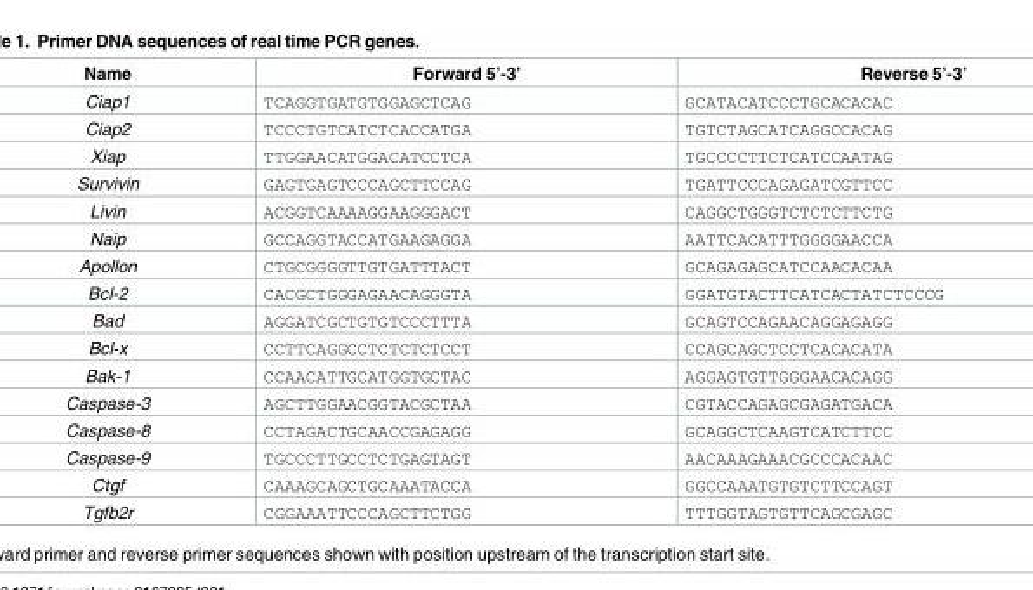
<table><thead><tr><td>Name</td><td>Forward 5’-3’</td><td>Reverse 5’-3’</td></tr></thead><tbody><tr><td>Ciap1</td><td>TCAGGTGATGTGGAGCTCAG</td><td>GCATACATCCCTGCACACAC</td></tr><tr><td>Ciap2</td><td>TCCCTGTCATCTCACCATGA</td><td>TGTCTAGCATCAGGCCACAG</td></tr><tr><td>Xiap</td><td>TTGGAACATGGACATCCTCA</td><td>TGCCCCTTCTCATCCAATAG</td></tr><tr><td>Survivin</td><td>GAGTGAGTCCCAGCTTCCAG</td><td>TGATTCCCAGAGATCGTTCC</td></tr><tr><td>Livin</td><td>ACGGTCAAAAGGAAGGGACT</td><td>CAGGCTGGGTCTCTCTTCTG</td></tr><tr><td>Naip</td><td>GCCAGGTACCATGAAGAGGA</td><td>AATTCACATTTGGGGAACCA</td></tr><tr><td>Apollon</td><td>CTGCGGGGTTGTGATTTACT</td><td>GCAGAGAGCATCCAACACAA</td></tr><tr><td>Bcl-2</td><td>CACGCTGGGAGAACAGGGTA</td><td>GGATGTACTTCATCACTATCTCCCG</td></tr><tr><td>Bad</td><td>AGGATCGCTGTGTCCCTTTA</td><td>GCAGTCCAGAACAGGAGAGG</td></tr><tr><td>Bcl-x</td><td>CCTTCAGGCCTCTCTCTCCT</td><td>CCAGCAGCTCCTCACACATA</td></tr><tr><td>Bak-1</td><td>CCAACATTGCATGGTGCTAC</td><td>AGGAGTGTTGGGAACACAGG</td></tr><tr><td>Caspase-3</td><td>AGCTTGGAACGGTACGCTAA</td><td>CGTACCAGAGCGAGATGACA</td></tr><tr><td>Caspase-8</td><td>CCTAGACTGCAACCGAGAGG</td><td>GCAGGCTCAAGTCATCTTCC</td></tr><tr><td>Caspase-9</td><td>TGCCCTTGCCTCTGAGTAGT</td><td>AACAAAGAAACGCCCACAAC</td></tr><tr><td>Ctgf</td><td>CAAAGCAGCTGCAAATACCA</td><td>GGCCAAATGTGTCTTCCAGT</td></tr><tr><td>Tgfb2r</td><td>CGGAAATTCCCAGCTTCTGG</td><td>TTTGGTAGTGTTCAGCGAGC</td></tr></tbody></table>